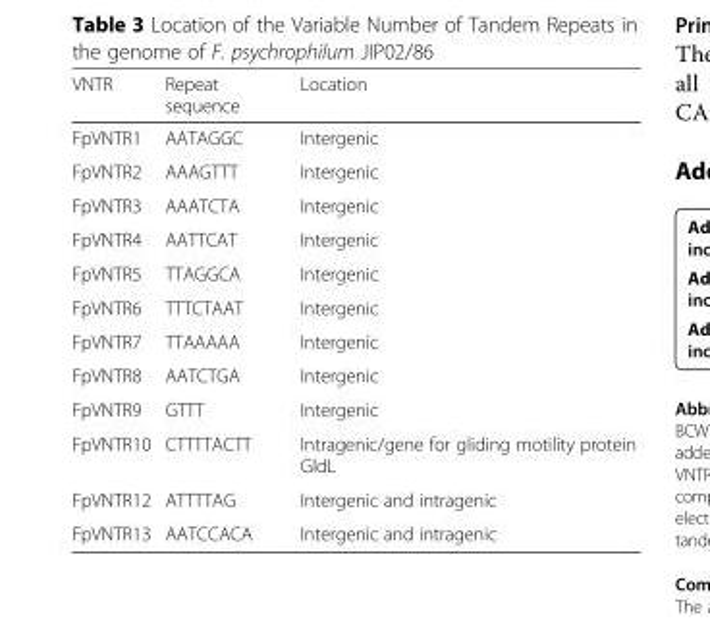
<table><thead><tr><td>VNTR</td><td>Repeat sequence</td><td>Location</td></tr></thead><tbody><tr><td>FpVNTR1</td><td>AATAGGC</td><td>Intergenic</td></tr><tr><td>FpVNTR2</td><td>AAAGTTT</td><td>Intergenic</td></tr><tr><td>FpVNTR3</td><td>AAATCTA</td><td>Intergenic</td></tr><tr><td>FpVNTR4</td><td>AATTCAT</td><td>Intergenic</td></tr><tr><td>FpVNTR5</td><td>TTAGGCA</td><td>Intergenic</td></tr><tr><td>FpVNTR6</td><td>TTTCTAAT</td><td>Intergenic</td></tr><tr><td>FpVNTR7</td><td>TTAAAAA</td><td>Intergenic</td></tr><tr><td>FpVNTR8</td><td>AATCTGA</td><td>Intergenic</td></tr><tr><td>FpVNTR9</td><td>GTTT</td><td>Intergenic</td></tr><tr><td>FpVNTR10</td><td>CTTTTACTT</td><td>Intragenic/gene for gliding motility protein GldL</td></tr><tr><td>FpVNTR12</td><td>ATTTTAG</td><td>Intergenic and intragenic</td></tr><tr><td>FpVNTR13</td><td>AATCCACA</td><td>Intergenic and intragenic</td></tr></tbody></table>